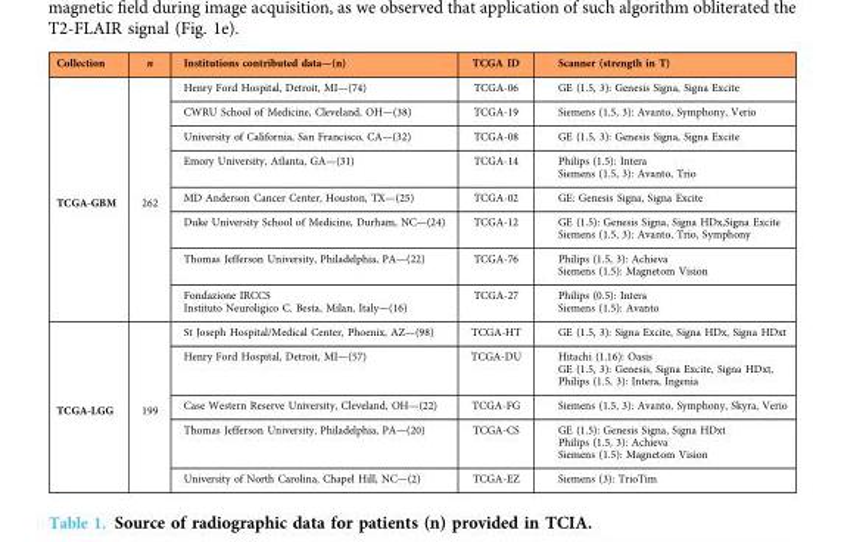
<table><thead><tr><td>Collection</td><td>n</td><td>Institutions contributed data—(n)</td><td>TCGA ID</td><td>Scanner (strength in T)</td></tr></thead><tbody><tr><td rowspan="8">TCGA-GBM</td><td rowspan="8">262</td><td>Henry Ford Hospital, Detroit, MI—(74)</td><td>TCGA-06</td><td>GE (1.5, 3): Genesis Signa, Signa Excite</td></tr><tr><td>CWRU School of Medicine, Cleveland, OH—(38)</td><td>TCGA-19</td><td>Siemens (1.5, 3): Avanto, Symphony, Verio</td></tr><tr><td>University of California, San Francisco, CA—(32)</td><td>TCGA-08</td><td>GE (1.5, 3): Genesis Signa, Signa Excite</td></tr><tr><td>Emory University, Atlanta, GA—(31)</td><td>TCGA-14</td><td>Philips (1.5): Intera Siemens (1.5, 3): Avanto, Trio</td></tr><tr><td>MD Anderson Cancer Center, Houston, TX—(25)</td><td>TCGA-02</td><td>GE: Genesis Signa, Signa Excite</td></tr><tr><td>Duke University School of Medicine, Durham, NC—(24)</td><td>TCGA-12</td><td>GE (1.5): Genesis Signa, Signa HDx,Signa Excite Siemens (1.5, 3): Avanto, Trio, Symphony</td></tr><tr><td>Thomas Jefferson University, Philadelphia, PA—(22)</td><td>TCGA-76</td><td>Philips (1.5, 3): Achieva Siemens (1.5): Magnetom Vision</td></tr><tr><td>Fondazione IRCCS Instituto Neuroligico C. Besta, Milan, Italy—(16)</td><td>TCGA-27</td><td>Philips (0.5): Intera Siemens (1.5): Avanto</td></tr><tr><td rowspan="5">TCGA-LGG</td><td rowspan="5">199</td><td>St Joseph Hospital/Medical Center, Phoenix, AZ—(98)</td><td>TCGA-HT</td><td>GE (1.5, 3): Signa Excite, Signa HDx, Signa HDxt</td></tr><tr><td>Henry Ford Hospital, Detroit, MI—(57)</td><td>TCGA-DU</td><td>Hitachi (1.16): Oasis GE (1.5, 3): Genesis, Signa Excite, Signa HDxt, Philips (1.5, 3): Intera, Ingenia</td></tr><tr><td>Case Western Reserve University, Cleveland, OH—(22)</td><td>TCGA-FG</td><td>Siemens (1.5, 3): Avanto, Symphony, Skyra, Verio</td></tr><tr><td>Thomas Jefferson University, Philadelphia, PA—(20)</td><td>TCGA-CS</td><td>GE (1.5): Genesis Signa, Signa HDxt Philips (1.5, 3): Achieva Siemens (1.5): Magnetom Vision</td></tr><tr><td>University of North Carolina, Chapel Hill, NC—(2)</td><td>TCGA-EZ</td><td>Siemens (3): TrioTim</td></tr></tbody></table>